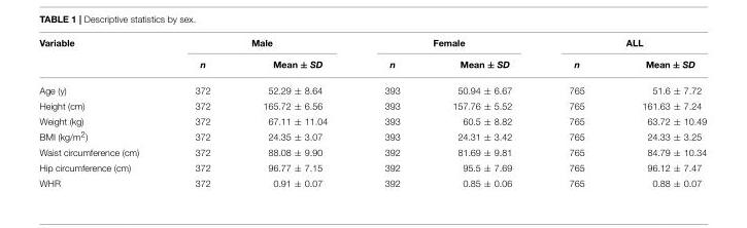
<table><thead><tr><td rowspan="2">Variable</td><td colspan="2">Male</td><td colspan="2">Female</td><td colspan="2">ALL</td></tr><tr><td>n</td><td>Mean ± SD</td><td>n</td><td>Mean ± SD</td><td>n</td><td>Mean ± SD</td></tr></thead><tbody><tr><td>Age (y)</td><td>372</td><td>52.29 ± 8.64</td><td>393</td><td>50.94 ± 6.67</td><td>765</td><td>51.6 ± 7.72</td></tr><tr><td>Height (cm)</td><td>372</td><td>165.72 ± 6.56</td><td>393</td><td>157.76 ± 5.52</td><td>765</td><td>161.63 ± 7.24</td></tr><tr><td>Weight (kg)</td><td>372</td><td>67.11 ± 11.04</td><td>393</td><td>60.5 ± 8.82</td><td>765</td><td>63.72 ± 10.49</td></tr><tr><td>BMI (kg/m<sup>2</sup>)</td><td>372</td><td>24.35 ± 3.07</td><td>393</td><td>24.31 ± 3.42</td><td>765</td><td>24.33 ± 3.25</td></tr><tr><td>Waist circumference (cm)</td><td>372</td><td>88.08 ± 9.90</td><td>392</td><td>81.69 ± 9.81</td><td>765</td><td>84.79 ± 10.34</td></tr><tr><td>Hip circumference (cm)</td><td>372</td><td>96.77 ± 7.15</td><td>392</td><td>95.5 ± 7.69</td><td>765</td><td>96.12 ± 7.47</td></tr><tr><td>WHR</td><td>372</td><td>0.91 ± 0.07</td><td>392</td><td>0.85 ± 0.06</td><td>765</td><td>0.88 ± 0.07</td></tr></tbody></table>